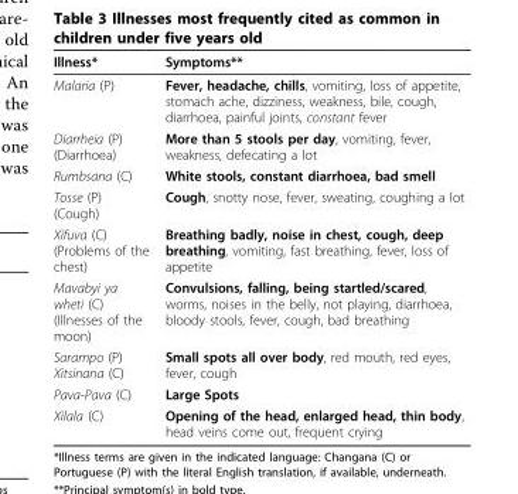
<table><thead><tr><td>Illness*</td><td>Symptoms**</td></tr></thead><tbody><tr><td>Malaria (P)</td><td>Fever, headache, chills, vomiting, loss of appetite, stomach ache, dizziness, weakness, bile, cough, diarrhoea, painful joints, constant fever</td></tr><tr><td>Diarrheia (P) (Diarrhoea)</td><td>More than 5 stools per day, vomiting, fever, weakness, defecating a lot</td></tr><tr><td>Rumbsana (C)</td><td>White stools, constant diarrhoea, bad smell</td></tr><tr><td>Tosse (P) (Cough)</td><td>Cough, snotty nose, fever, sweating, coughing a lot</td></tr><tr><td>Xifuva (C) (Problems of the chest)</td><td>Breathing badly, noise in chest, cough, deep breathing, vomiting, fast breathing, fever, loss of appetite</td></tr><tr><td>Mavabyi ya wheti (C) (Illnesses of the moon)</td><td>Convulsions, falling, being startled/scared, worms, noises in the belly, not playing, diarrhoea, bloody stools, fever, cough, bad breathing</td></tr><tr><td>Sarampo (P) Xitsinana (C)</td><td>Small spots all over body, red mouth, red eyes, fever, cough</td></tr><tr><td>Pava-Pava (C)</td><td>Large Spots</td></tr><tr><td>Xilala (C)</td><td>Opening of the head, enlarged head, thin body, head veins come out, frequent crying</td></tr></tbody></table>